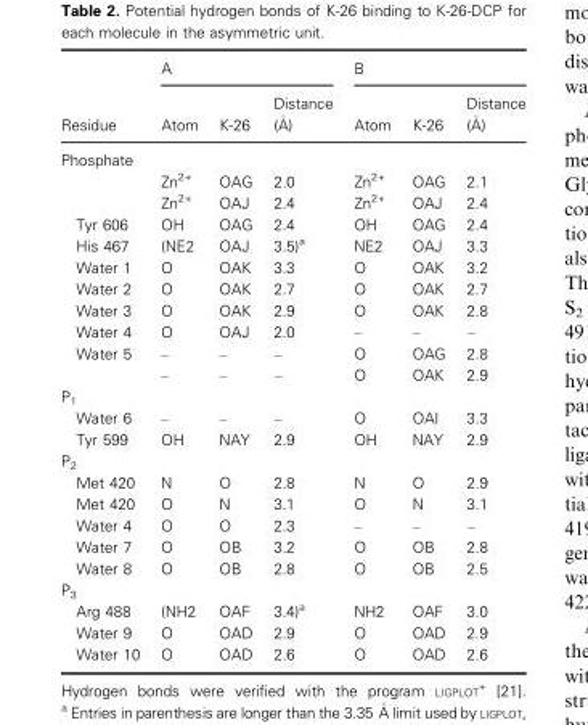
<table><thead><tr><td rowspan="2">Residue</td><td colspan="3">A</td><td colspan="3">B</td></tr><tr><td>Atom</td><td>K-26</td><td>Distance (�A)</td><td>Atom</td><td>K-26</td><td>Distance (�A)</td></tr></thead><tbody><tr><td colspan="7">Phosphate</td></tr><tr><td></td><td>Zn<sup>2+</sup></td><td>OAG</td><td>2.0</td><td>Zn<sup>2+</sup></td><td>OAG</td><td>2.1</td></tr><tr><td></td><td>Zn<sup>2+</sup></td><td>OAJ</td><td>2.4</td><td>Zn<sup>2+</sup></td><td>OAJ</td><td>2.4</td></tr><tr><td>Tyr 606</td><td>OH</td><td>OAG</td><td>2.4</td><td>OH</td><td>OAG</td><td>2.4</td></tr><tr><td>His 467</td><td>(NE2</td><td>OAJ</td><td>3.5)<sup>a</sup></td><td>NE2</td><td>OAJ</td><td>3.3</td></tr><tr><td>Water 1</td><td>O</td><td>OAK</td><td>3.3</td><td>O</td><td>OAK</td><td>3.2</td></tr><tr><td>Water 2</td><td>O</td><td>OAK</td><td>2.7</td><td>O</td><td>OAK</td><td>2.7</td></tr><tr><td>Water 3</td><td>O</td><td>OAK</td><td>2.9</td><td>O</td><td>OAK</td><td>2.8</td></tr><tr><td>Water 4</td><td>O</td><td>OAJ</td><td>2.0</td><td>–</td><td>–</td><td>–</td></tr><tr><td rowspan="2">Water 5</td><td>–</td><td>–</td><td>–</td><td>O</td><td>OAG</td><td>2.8</td></tr><tr><td>–</td><td>–</td><td>–</td><td>O</td><td>OAK</td><td>2.9</td></tr><tr><td colspan="7">P<sub>1</sub></td></tr><tr><td>Water 6</td><td>–</td><td>–</td><td>–</td><td>O</td><td>OAI</td><td>3.3</td></tr><tr><td>Tyr 599</td><td>OH</td><td>NAY</td><td>2.9</td><td>OH</td><td>NAY</td><td>2.9</td></tr><tr><td colspan="7">P<sub>2</sub></td></tr><tr><td>Met 420</td><td>N</td><td>O</td><td>2.8</td><td>N</td><td>O</td><td>2.9</td></tr><tr><td>Met 420</td><td>O</td><td>N</td><td>3.1</td><td>O</td><td>N</td><td>3.1</td></tr><tr><td>Water 4</td><td>O</td><td>O</td><td>2.3</td><td>–</td><td>–</td><td>–</td></tr><tr><td>Water 7</td><td>O</td><td>OB</td><td>3.2</td><td>O</td><td>OB</td><td>2.8</td></tr><tr><td>Water 8</td><td>O</td><td>OB</td><td>2.8</td><td>O</td><td>OB</td><td>2.5</td></tr><tr><td colspan="7">P<sub>3</sub></td></tr><tr><td>Arg 488</td><td>(NH2</td><td>OAF</td><td>3.4)<sup>a</sup></td><td>NH2</td><td>OAF</td><td>3.0</td></tr><tr><td>Water 9</td><td>O</td><td>OAD</td><td>2.9</td><td>O</td><td>OAD</td><td>2.9</td></tr><tr><td>Water 10</td><td>O</td><td>OAD</td><td>2.6</td><td>O</td><td>OAD</td><td>2.6</td></tr></tbody></table>